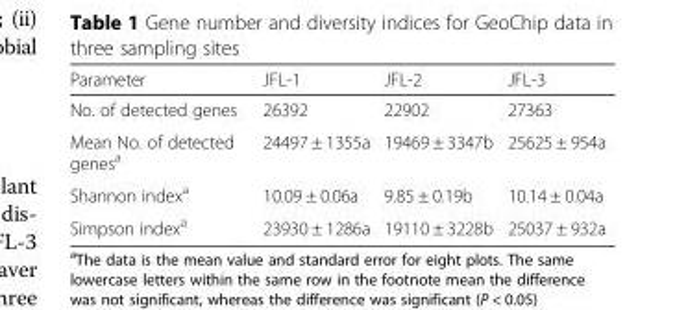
<table><thead><tr><td>Parameter</td><td>JFL-1</td><td>JFL-2</td><td>JFL-3</td></tr></thead><tbody><tr><td>No. of detected genes</td><td>26392</td><td>22902</td><td>27363</td></tr><tr><td>Mean No. of detected genes<sup>a</sup></td><td>24497 ± 1355a</td><td>19469 ± 3347b</td><td>25625 ± 954a</td></tr><tr><td>Shannon index<sup>a</sup></td><td>10.09 ± 0.06a</td><td>9.85 ± 0.19b</td><td>10.14 ± 0.04a</td></tr><tr><td>Simpson index<sup>a</sup></td><td>23930 ± 1286a</td><td>19110 ± 3228b</td><td>25037 ± 932a</td></tr></tbody></table>